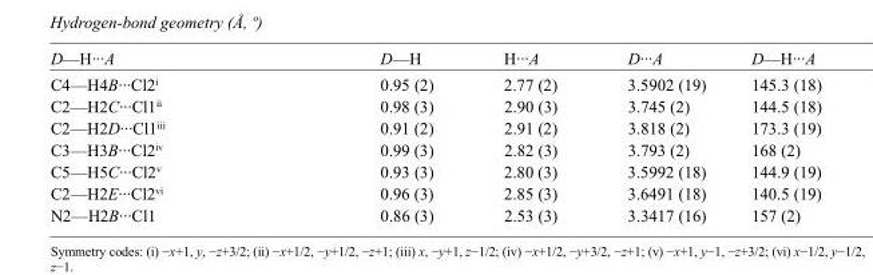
<table><tbody><tr><td>D—H···A</td><td>D—H</td><td>H···A</td><td>D···A</td><td>D—H···A</td></tr><tr><td>C4—H4B···Cl2<sup>i</sup></td><td>0.95 (2)</td><td>2.77 (2)</td><td>3.5902 (19)</td><td>145.3 (18)</td></tr><tr><td>C2—H2C···Cl1<sup>ii</sup></td><td>0.98 (3)</td><td>2.90 (3)</td><td>3.745 (2)</td><td>144.5 (18)</td></tr><tr><td>C2—H2D···Cl1<sup>iii</sup></td><td>0.91 (2)</td><td>2.91 (2)</td><td>3.818 (2)</td><td>173.3 (19)</td></tr><tr><td>C3—H3B···Cl2<sup>iv</sup></td><td>0.99 (3)</td><td>2.82 (3)</td><td>3.793 (2)</td><td>168 (2)</td></tr><tr><td>C5—H5C···Cl2<sup>v</sup></td><td>0.93 (3)</td><td>2.80 (3)</td><td>3.5992 (18)</td><td>144.9 (19)</td></tr><tr><td>C2—H2E···Cl2<sup>vi</sup></td><td>0.96 (3)</td><td>2.85 (3)</td><td>3.6491 (18)</td><td>140.5 (19)</td></tr><tr><td>N2—H2B···Cl1</td><td>0.86 (3)</td><td>2.53 (3)</td><td>3.3417 (16)</td><td>157 (2)</td></tr></tbody></table>